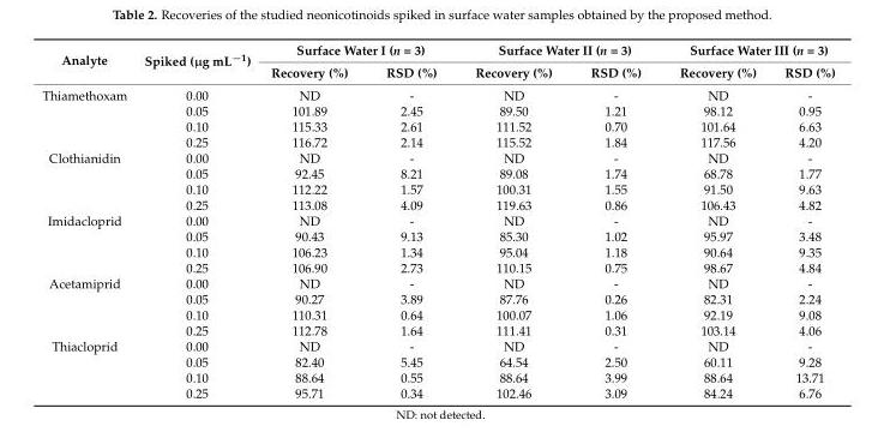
<table><thead><tr><td rowspan="2">Analyte</td><td rowspan="2">Spiked (µg mL<sup>−1</sup>)</td><td colspan="2">Surface Water I (n = 3)</td><td colspan="2">Surface Water II (n = 3)</td><td colspan="2">Surface Water III (n = 3)</td></tr><tr><td>Recovery (%)</td><td>RSD (%)</td><td>Recovery (%)</td><td>RSD (%)</td><td>Recovery (%)</td><td>RSD (%)</td></tr></thead><tbody><tr><td rowspan="4">Thiamethoxam</td><td>0.00</td><td>ND</td><td>-</td><td>ND</td><td>-</td><td>ND</td><td>-</td></tr><tr><td>0.05</td><td>101.89</td><td>2.45</td><td>89.50</td><td>1.21</td><td>98.12</td><td>0.95</td></tr><tr><td>0.10</td><td>115.33</td><td>2.61</td><td>111.52</td><td>0.70</td><td>101.64</td><td>6.63</td></tr><tr><td>0.25</td><td>116.72</td><td>2.14</td><td>115.52</td><td>1.84</td><td>117.56</td><td>4.20</td></tr><tr><td rowspan="4">Clothianidin</td><td>0.00</td><td>ND</td><td>-</td><td>ND</td><td>-</td><td>ND</td><td>-</td></tr><tr><td>0.05</td><td>92.45</td><td>8.21</td><td>89.08</td><td>1.74</td><td>68.78</td><td>1.77</td></tr><tr><td>0.10</td><td>112.22</td><td>1.57</td><td>100.31</td><td>1.55</td><td>91.50</td><td>9.63</td></tr><tr><td>0.25</td><td>113.08</td><td>4.09</td><td>119.63</td><td>0.86</td><td>106.43</td><td>4.82</td></tr><tr><td rowspan="4">Imidacloprid</td><td>0.00</td><td>ND</td><td>-</td><td>ND</td><td>-</td><td>ND</td><td>-</td></tr><tr><td>0.05</td><td>90.43</td><td>9.13</td><td>85.30</td><td>1.02</td><td>95.97</td><td>3.48</td></tr><tr><td>0.10</td><td>106.23</td><td>1.34</td><td>95.04</td><td>1.18</td><td>90.64</td><td>9.35</td></tr><tr><td>0.25</td><td>106.90</td><td>2.73</td><td>110.15</td><td>0.75</td><td>98.67</td><td>4.84</td></tr><tr><td rowspan="4">Acetamiprid</td><td>0.00</td><td>ND</td><td>-</td><td>ND</td><td>-</td><td>ND</td><td>-</td></tr><tr><td>0.05</td><td>90.27</td><td>3.89</td><td>87.76</td><td>0.26</td><td>82.31</td><td>2.24</td></tr><tr><td>0.10</td><td>110.31</td><td>0.64</td><td>100.07</td><td>1.06</td><td>92.19</td><td>9.08</td></tr><tr><td>0.25</td><td>112.78</td><td>1.64</td><td>111.41</td><td>0.31</td><td>103.14</td><td>4.06</td></tr><tr><td rowspan="4">Thiacloprid</td><td>0.00</td><td>ND</td><td>-</td><td>ND</td><td>-</td><td>ND</td><td>-</td></tr><tr><td>0.05</td><td>82.40</td><td>5.45</td><td>64.54</td><td>2.50</td><td>60.11</td><td>9.28</td></tr><tr><td>0.10</td><td>88.64</td><td>0.55</td><td>88.64</td><td>3.99</td><td>88.64</td><td>13.71</td></tr><tr><td>0.25</td><td>95.71</td><td>0.34</td><td>102.46</td><td>3.09</td><td>84.24</td><td>6.76</td></tr></tbody></table>